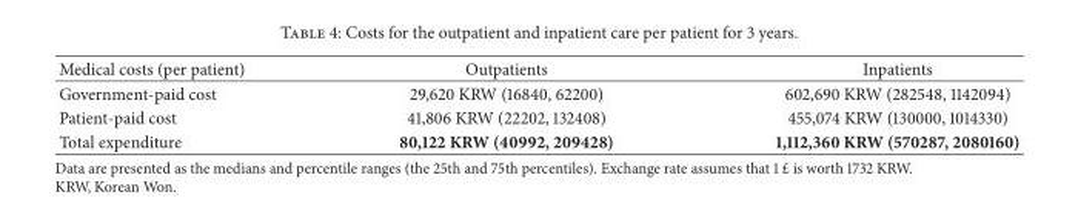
<table><thead><tr><td>Medical costs (per patient)</td><td>Outpatients</td><td>Inpatients</td></tr></thead><tbody><tr><td>Government-paid cost</td><td>29,620 KRW (16840, 62200)</td><td>602,690 KRW (282548, 1142094)</td></tr><tr><td>Patient-paid cost</td><td>41,806 KRW (22202, 132408)</td><td>455,074 KRW (130000, 1014330)</td></tr><tr><td>Total expenditure</td><td>80,122 KRW (40992, 209428)</td><td>1,112,360 KRW (570287, 2080160)</td></tr></tbody></table>